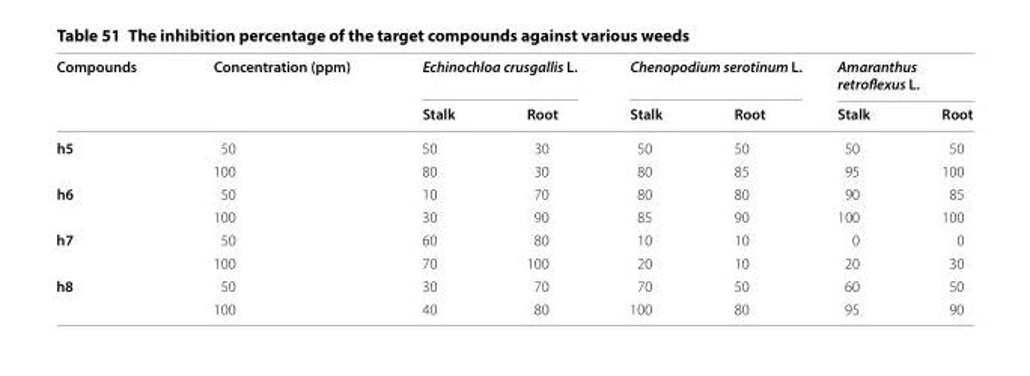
<table><thead><tr><td rowspan="2">Compounds</td><td rowspan="2">Concentration (ppm)</td><td colspan="2">Echinochloa crusgallis L.</td><td colspan="2">Chenopodium serotinum L.</td><td colspan="2">Amaranthus retroflexus L.</td></tr><tr><td>Stalk</td><td>Root</td><td>Stalk</td><td>Root</td><td>Stalk</td><td>Root</td></tr></thead><tbody><tr><td rowspan="2">h5</td><td>50</td><td>50</td><td>30</td><td>50</td><td>50</td><td>50</td><td>50</td></tr><tr><td>100</td><td>80</td><td>30</td><td>80</td><td>85</td><td>95</td><td>100</td></tr><tr><td rowspan="2">h6</td><td>50</td><td>10</td><td>70</td><td>80</td><td>80</td><td>90</td><td>85</td></tr><tr><td>100</td><td>30</td><td>90</td><td>85</td><td>90</td><td>100</td><td>100</td></tr><tr><td rowspan="2">h7</td><td>50</td><td>60</td><td>80</td><td>10</td><td>10</td><td>0</td><td>0</td></tr><tr><td>100</td><td>70</td><td>100</td><td>20</td><td>10</td><td>20</td><td>30</td></tr><tr><td rowspan="2">h8</td><td>50</td><td>30</td><td>70</td><td>70</td><td>50</td><td>60</td><td>50</td></tr><tr><td>100</td><td>40</td><td>80</td><td>100</td><td>80</td><td>95</td><td>90</td></tr></tbody></table>